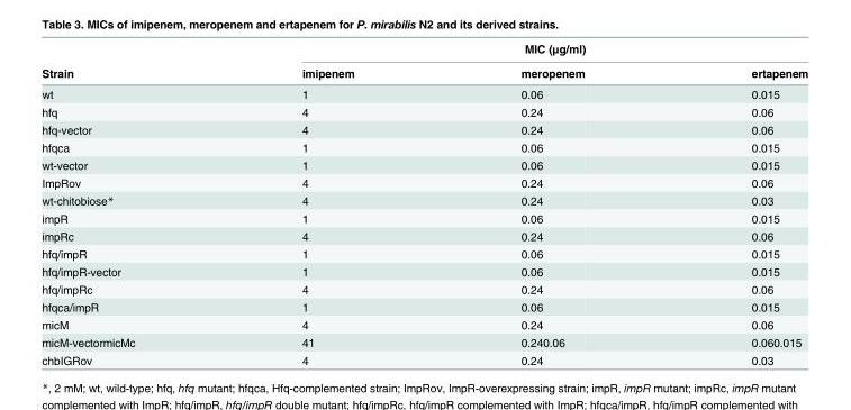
<table><thead><tr><td rowspan="2">Strain</td><td colspan="3">MIC (μg/ml)</td></tr><tr><td>imipenem</td><td>meropenem</td><td>ertapenem</td></tr></thead><tbody><tr><td>wt</td><td>1</td><td>0.06</td><td>0.015</td></tr><tr><td>hfq</td><td>4</td><td>0.24</td><td>0.06</td></tr><tr><td>hfq-vector</td><td>4</td><td>0.24</td><td>0.06</td></tr><tr><td>hfqca</td><td>1</td><td>0.06</td><td>0.015</td></tr><tr><td>wt-vector</td><td>1</td><td>0.06</td><td>0.015</td></tr><tr><td>ImpRov</td><td>4</td><td>0.24</td><td>0.06</td></tr><tr><td>wt-chitobiose*</td><td>4</td><td>0.24</td><td>0.03</td></tr><tr><td>impR</td><td>1</td><td>0.06</td><td>0.015</td></tr><tr><td>impRc</td><td>4</td><td>0.24</td><td>0.06</td></tr><tr><td>hfq/impR</td><td>1</td><td>0.06</td><td>0.015</td></tr><tr><td>hfq/impR-vector</td><td>1</td><td>0.06</td><td>0.015</td></tr><tr><td>hfq/impRc</td><td>4</td><td>0.24</td><td>0.06</td></tr><tr><td>hfqca/impR</td><td>1</td><td>0.06</td><td>0.015</td></tr><tr><td>micM</td><td>4</td><td>0.24</td><td>0.06</td></tr><tr><td>micM-vectormicMc</td><td>41</td><td>0.240.06</td><td>0.060.015</td></tr><tr><td>chbIGRov</td><td>4</td><td>0.24</td><td>0.03</td></tr></tbody></table>